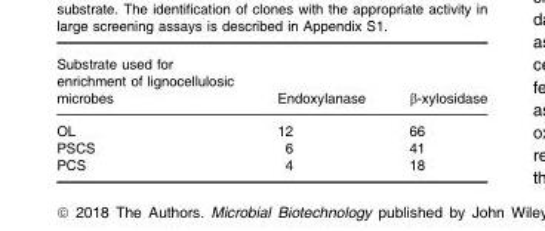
<table><thead><tr><td>Substrate used for enrichment of lignocellulosic microbes</td><td>Endoxylanase</td><td>β-xylosidase</td></tr></thead><tbody><tr><td>OL</td><td>12</td><td>66</td></tr><tr><td>PSCS</td><td>6</td><td>41</td></tr><tr><td>PCS</td><td>4</td><td>18</td></tr></tbody></table>